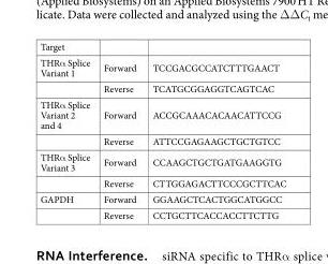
<table><tbody><tr><td colspan="3">Target</td></tr><tr><td rowspan="2">THRα Splice Variant 1</td><td>Forward</td><td>TCCGACGCCATCTTTGAACT</td></tr><tr><td>Reverse</td><td>TCATGCGGAGGTCAGTCAC</td></tr><tr><td rowspan="2">THRα Splice Variant 2 and 4</td><td>Forward</td><td>ACCGCAAACACAACATTCCG</td></tr><tr><td>Reverse</td><td>ATTCCGAGAAGCTGCTGTCC</td></tr><tr><td rowspan="2">THRα Splice Variant 3</td><td>Forward</td><td>CCAAGCTGCTGATGAAGGTG</td></tr><tr><td>Reverse</td><td>CTTGGAGACTTCCCGCTTCAC</td></tr><tr><td rowspan="2">GAPDH</td><td>Forward</td><td>GGAAGCTCACTGGCATGGCC</td></tr><tr><td>Reverse</td><td>CCTGCTTCACCACCTTCTTG</td></tr></tbody></table>